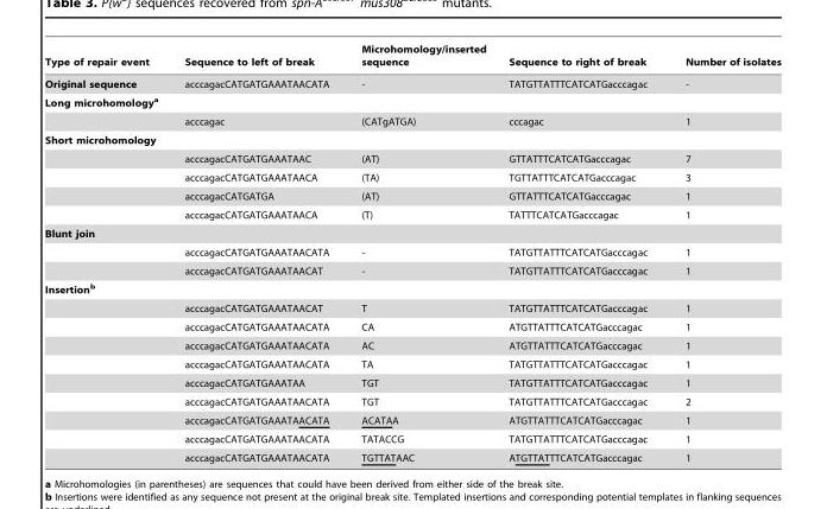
<table><thead><tr><td>Type of repair event</td><td>Sequence to left of break</td><td>Microhomology/inserted sequence</td><td>Sequence to right of break</td><td>Number of isolates</td></tr></thead><tbody><tr><td>Original sequence</td><td>acccagacCATGATGAAATAACATA</td><td>-</td><td>TATGTTATTTCATCATGacccagac</td><td>-</td></tr><tr><td colspan="5">Long microhomologya</td></tr><tr><td></td><td>acccagac</td><td>(CATgATGA)</td><td>cccagac</td><td>1</td></tr><tr><td colspan="5">Short microhomology</td></tr><tr><td></td><td>acccagacCATGATGAAATAAC</td><td>(AT)</td><td>GTTATTTCATCATGacccagac</td><td>7</td></tr><tr><td></td><td>acccagacCATGATGAAATAACA</td><td>(TA)</td><td>TGTTATTTCATCATGacccagac</td><td>3</td></tr><tr><td></td><td>acccagacCATGATGA</td><td>(AT)</td><td>GTTATTTCATCATGacccagac</td><td>1</td></tr><tr><td></td><td>acccagacCATGATGAAATAACA</td><td>(T)</td><td>TATTTCATCATGacccagac</td><td>1</td></tr><tr><td colspan="5">Blunt join</td></tr><tr><td></td><td>acccagacCATGATGAAATAACATA</td><td>-</td><td>TATGTTATTTCATCATGacccagac</td><td>1</td></tr><tr><td></td><td>acccagacCATGATGAAATAACAT</td><td>-</td><td>TATGTTATTTCATCATGacccagac</td><td>1</td></tr><tr><td colspan="5">Insertionb</td></tr><tr><td></td><td>acccagacCATGATGAAATAACAT</td><td>T</td><td>TATGTTATTTCATCATGacccagac</td><td>1</td></tr><tr><td></td><td>acccagacCATGATGAAATAACATA</td><td>CA</td><td>ATGTTATTTCATCATGacccagac</td><td>1</td></tr><tr><td></td><td>acccagacCATGATGAAATAACATA</td><td>AC</td><td>ATGTTATTTCATCATGacccagac</td><td>1</td></tr><tr><td></td><td>acccagacCATGATGAAATAACATA</td><td>TA</td><td>TATGTTATTTCATCATGacccagac</td><td>1</td></tr><tr><td></td><td>acccagacCATGATGAAATAA</td><td>TGT</td><td>TATGTTATTTCATCATGacccagac</td><td>1</td></tr><tr><td></td><td>acccagacCATGATGAAATAACATA</td><td>TGT</td><td>TATGTTATTTCATCATGacccagac</td><td>2</td></tr><tr><td></td><td>acccagacCATGATGAAATAACATA</td><td>ACATAA</td><td>ATGTTATTTCATCATGacccagac</td><td>1</td></tr><tr><td></td><td>acccagacCATGATGAAATAACATA</td><td>TATACCG</td><td>TATGTTATTTCATCATGacccagac</td><td>1</td></tr><tr><td></td><td>acccagacCATGATGAAATAACATA</td><td>TGTTATAAC</td><td>ATGTTATTTCATCATGacccagac</td><td>1</td></tr></tbody></table>